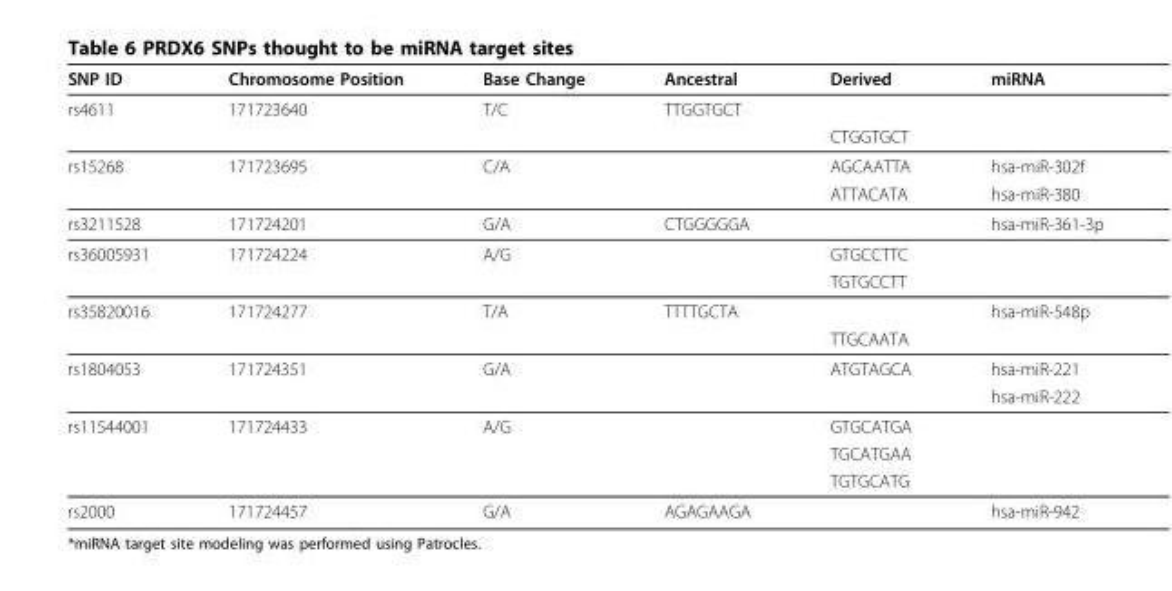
<table><thead><tr><td>SNP ID</td><td>Chromosome Position</td><td>Base Change</td><td>Ancestral</td><td>Derived</td><td>miRNA</td></tr></thead><tbody><tr><td rowspan="2">rs4611</td><td>171723640</td><td>T/C</td><td>TTGGTGCT</td><td></td><td></td></tr><tr><td></td><td></td><td></td><td>CTGGTGCT</td><td></td></tr><tr><td rowspan="2">rs15268</td><td>171723695</td><td>C/A</td><td></td><td>AGCAATTA</td><td>hsa-miR-302f</td></tr><tr><td></td><td></td><td></td><td>ATTACATA</td><td>hsa-miR-380</td></tr><tr><td>rs3211528</td><td>171724201</td><td>G/A</td><td>CTGGGGGA</td><td></td><td>hsa-miR-361-3p</td></tr><tr><td rowspan="2">rs36005931</td><td>171724224</td><td>A/G</td><td></td><td>GTGCCTTC</td><td></td></tr><tr><td></td><td></td><td></td><td>TGTGCCTT</td><td></td></tr><tr><td rowspan="2">rs35820016</td><td>171724277</td><td>T/A</td><td>TTTTGCTA</td><td></td><td>hsa-miR-548p</td></tr><tr><td></td><td></td><td></td><td>TTGCAATA</td><td></td></tr><tr><td rowspan="2">rs1804053</td><td>171724351</td><td>G/A</td><td></td><td>ATGTAGCA</td><td>hsa-miR-221</td></tr><tr><td></td><td></td><td></td><td></td><td>hsa-miR-222</td></tr><tr><td rowspan="3">rs11544001</td><td>171724433</td><td>A/G</td><td></td><td>GTGCATGA</td><td></td></tr><tr><td></td><td></td><td></td><td>TGCATGAA</td><td></td></tr><tr><td></td><td></td><td></td><td>TGTGCATG</td><td></td></tr><tr><td>rs2000</td><td>171724457</td><td>G/A</td><td>AGAGAAGA</td><td></td><td>hsa-miR-942</td></tr></tbody></table>